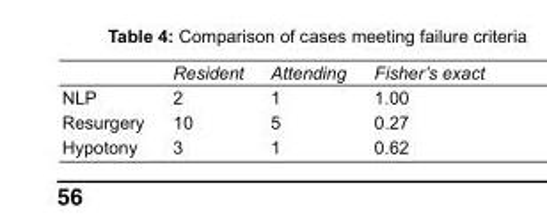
<table><thead><tr><td></td><td>Resident</td><td>Attending</td><td>Fisher’s exact</td></tr></thead><tbody><tr><td>NLP</td><td>2</td><td>1</td><td>1.00</td></tr><tr><td>Resurgery</td><td>10</td><td>5</td><td>0.27</td></tr><tr><td>Hypotony</td><td>3</td><td>1</td><td>0.62</td></tr></tbody></table>